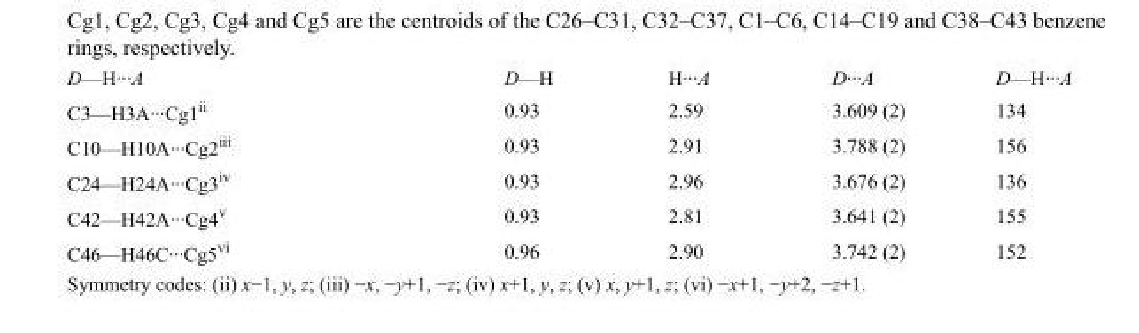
<table><tbody><tr><td>D—H···A</td><td>D—H</td><td>H···A</td><td>D···A</td><td>D—H···A</td></tr><tr><td>C3—H3A···Cg1<sup>ii</sup></td><td>0.93</td><td>2.59</td><td>3.609 (2)</td><td>134</td></tr><tr><td>C10—H10A···Cg2<sup>iii</sup></td><td>0.93</td><td>2.91</td><td>3.788 (2)</td><td>156</td></tr><tr><td>C24—H24A···Cg3<sup>iv</sup></td><td>0.93</td><td>2.96</td><td>3.676 (2)</td><td>136</td></tr><tr><td>C42—H42A···Cg4<sup>v</sup></td><td>0.93</td><td>2.81</td><td>3.641 (2)</td><td>155</td></tr><tr><td>C46—H46C···Cg5<sup>vi</sup></td><td>0.96</td><td>2.90</td><td>3.742 (2)</td><td>152</td></tr></tbody></table>